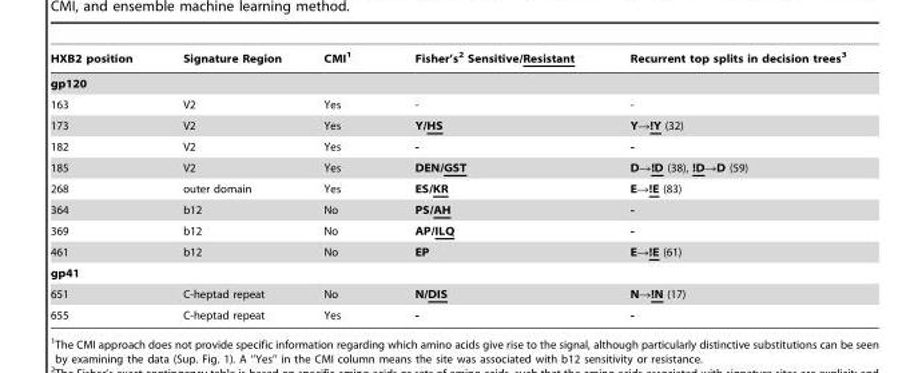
<table><thead><tr><td>HXB2 position</td><td>Signature Region</td><td>CMI<sup>1</sup></td><td>Fisher’s<sup>2</sup> Sensitive/Resistant</td><td>Recurrent top splits in decision trees<sup>3</sup></td></tr></thead><tbody><tr><td colspan="5">gp120</td></tr><tr><td>163</td><td>V2</td><td>Yes</td><td>-</td><td>-</td></tr><tr><td>173</td><td>V2</td><td>Yes</td><td>Y/HS</td><td>Y→!Y (32)</td></tr><tr><td>182</td><td>V2</td><td>Yes</td><td>-</td><td>-</td></tr><tr><td>185</td><td>V2</td><td>Yes</td><td>DEN/GST</td><td>D→!D (38), !D→D (59)</td></tr><tr><td>268</td><td>outer domain</td><td>Yes</td><td>ES/KR</td><td>E→!E (83)</td></tr><tr><td>364</td><td>b12</td><td>No</td><td>PS/AH</td><td>-</td></tr><tr><td>369</td><td>b12</td><td>No</td><td>AP/ILQ</td><td>-</td></tr><tr><td>461</td><td>b12</td><td>No</td><td>EP</td><td>E→!E (61)</td></tr><tr><td colspan="5">gp41</td></tr><tr><td>651</td><td>C-heptad repeat</td><td>No</td><td>N/DIS</td><td>N→!N (17)</td></tr><tr><td>655</td><td>C-heptad repeat</td><td>Yes</td><td>-</td><td>-</td></tr></tbody></table>